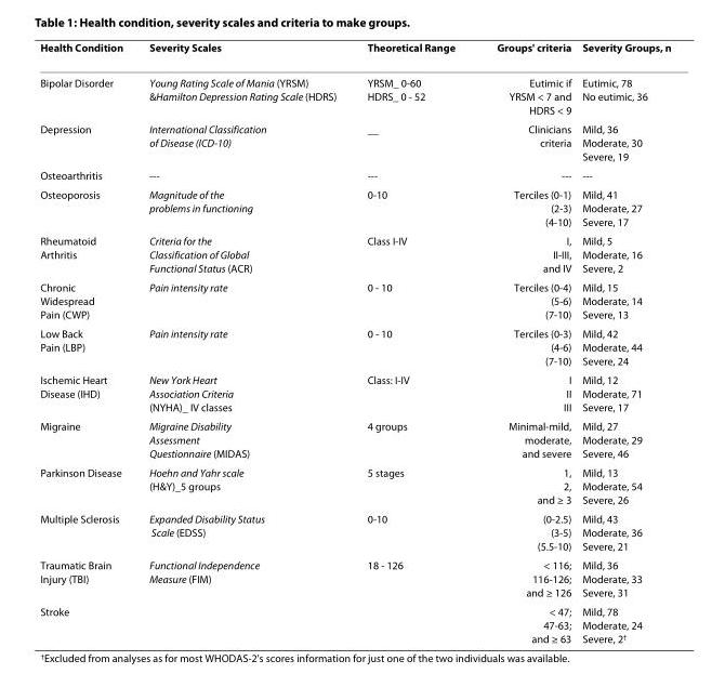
<table><thead><tr><td>Health Condition</td><td>Severity Scales</td><td>Theoretical Range</td><td>Groups&#x27; criteria</td><td>Severity Groups, n</td></tr></thead><tbody><tr><td>Bipolar Disorder</td><td>Young Rating Scale of Mania (YRSM) &amp;Hamilton Depression Rating Scale (HDRS)</td><td>YRSM_ 0-60 HDRS_ 0 - 52</td><td>Eutimic if YRSM &lt; 7 and HDRS &lt; 9</td><td>Eutimic, 78 No eutimic, 36</td></tr><tr><td>Depression</td><td>International Classification of Disease (ICD-10)</td><td>__</td><td>Clinicians criteria</td><td>Mild, 36 Moderate, 30 Severe, 19</td></tr><tr><td>Osteoarthritis</td><td>---</td><td>---</td><td>---</td><td>---</td></tr><tr><td>Osteoporosis</td><td>Magnitude of the problems in functioning</td><td>0-10</td><td>Terciles (0-1) (2-3) (4-10)</td><td>Mild, 41 Moderate, 27 Severe, 17</td></tr><tr><td>Rheumatoid Arthritis</td><td>Criteria for the Classification of Global Functional Status (ACR)</td><td>Class I-IV</td><td>I, II-III, and IV</td><td>Mild, 5 Moderate, 16 Severe, 2</td></tr><tr><td>Chronic Widespread Pain (CWP)</td><td>Pain intensity rate</td><td>0 - 10</td><td>Terciles (0-4) (5-6) (7-10)</td><td>Mild, 15 Moderate, 14 Severe, 13</td></tr><tr><td>Low Back Pain (LBP)</td><td>Pain intensity rate</td><td>0 - 10</td><td>Terciles (0-3) (4-6) (7-10)</td><td>Mild, 42 Moderate, 44 Severe, 24</td></tr><tr><td>Ischemic Heart Disease (IHD)</td><td>New York Heart Association Criteria (NYHA)_ IV classes</td><td>Class: I-IV</td><td>I II III</td><td>Mild, 12 Moderate, 71 Severe, 17</td></tr><tr><td>Migraine</td><td>Migraine Disability Assessment Questionnaire (MIDAS)</td><td>4 groups</td><td>Minimal-mild, moderate, and severe</td><td>Mild, 27 Moderate, 29 Severe, 46</td></tr><tr><td>Parkinson Disease</td><td>Hoehn and Yahr scale (H&amp;Y)_5 groups</td><td>5 stages</td><td>1, 2, and ≥ 3</td><td>Mild, 13 Moderate, 54 Severe, 26</td></tr><tr><td>Multiple Sclerosis</td><td>Expanded Disability Status Scale (EDSS)</td><td>0-10</td><td>(0-2.5) (3-5) (5.5-10)</td><td>Mild, 43 Moderate, 36 Severe, 21</td></tr><tr><td>Traumatic Brain Injury (TBI)</td><td>Functional Independence Measure (FIM)</td><td>18 - 126</td><td>&lt; 116; 116-126; and ≥ 126</td><td>Mild, 36 Moderate, 33 Severe, 31</td></tr><tr><td>Stroke</td><td></td><td></td><td>&lt; 47; 47-63; and ≥ 63</td><td>Mild, 78 Moderate, 24 Severe, 2<sup>†</sup></td></tr></tbody></table>